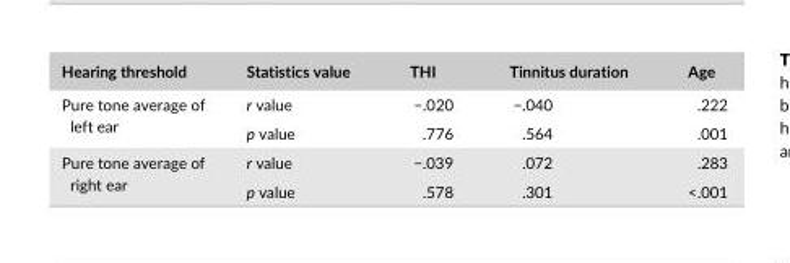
<table><thead><tr><td>Hearing threshold</td><td>Statistics value</td><td>THI</td><td>Tinnitus duration</td><td>Age</td></tr></thead><tbody><tr><td rowspan="2">Pure tone average of left ear</td><td>r value</td><td>−.020</td><td>−.040</td><td>.222</td></tr><tr><td>p value</td><td>.776</td><td>.564</td><td>.001</td></tr><tr><td rowspan="2">Pure tone average of right ear</td><td>r value</td><td>−.039</td><td>.072</td><td>.283</td></tr><tr><td>p value</td><td>.578</td><td>.301</td><td>&lt;.001</td></tr></tbody></table>